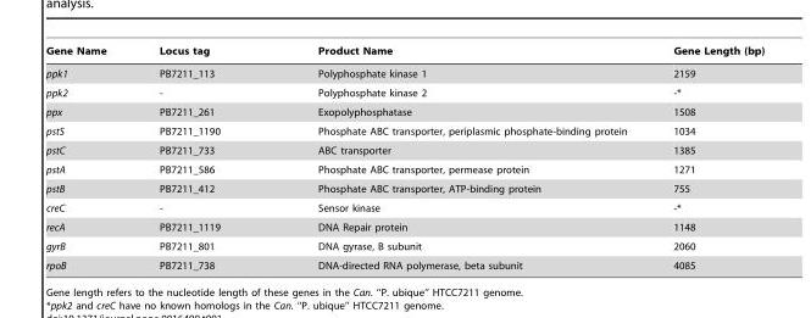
<table><thead><tr><td>Gene Name</td><td>Locus tag</td><td>Product Name</td><td>Gene Length (bp)</td></tr></thead><tbody><tr><td>ppk1</td><td>PB7211_113</td><td>Polyphosphate kinase 1</td><td>2159</td></tr><tr><td>ppk2</td><td>-</td><td>Polyphosphate kinase 2</td><td>-*</td></tr><tr><td>ppx</td><td>PB7211_261</td><td>Exopolyphosphatase</td><td>1508</td></tr><tr><td>pstS</td><td>PB7211_1190</td><td>Phosphate ABC transporter, periplasmic phosphate-binding protein</td><td>1034</td></tr><tr><td>pstC</td><td>PB7211_733</td><td>ABC transporter</td><td>1385</td></tr><tr><td>pstA</td><td>PB7211_586</td><td>Phosphate ABC transporter, permease protein</td><td>1271</td></tr><tr><td>pstB</td><td>PB7211_412</td><td>Phosphate ABC transporter, ATP-binding protein</td><td>755</td></tr><tr><td>creC</td><td>-</td><td>Sensor kinase</td><td>-*</td></tr><tr><td>recA</td><td>PB7211_1119</td><td>DNA Repair protein</td><td>1148</td></tr><tr><td>gyrB</td><td>PB7211_801</td><td>DNA gyrase, B subunit</td><td>2060</td></tr><tr><td>rpoB</td><td>PB7211_738</td><td>DNA-directed RNA polymerase, beta subunit</td><td>4085</td></tr></tbody></table>